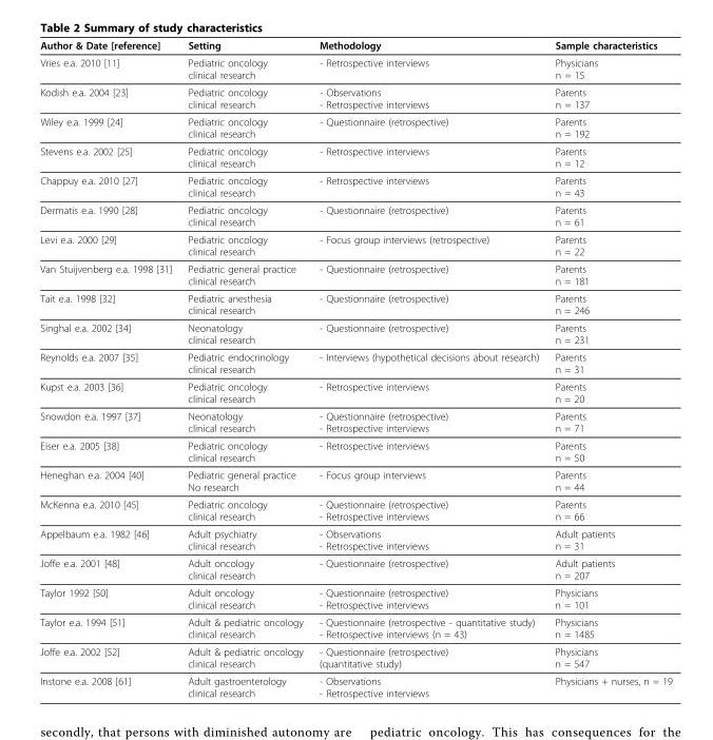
<table><thead><tr><td>Author &amp; Date [reference]</td><td>Setting</td><td>Methodology</td><td>Sample characteristics</td></tr></thead><tbody><tr><td>Vries e.a. 2010 [11]</td><td>Pediatric oncology clinical research</td><td>- Retrospective interviews</td><td>Physicians n = 15</td></tr><tr><td>Kodish e.a. 2004 [23]</td><td>Pediatric oncology clinical research</td><td>- Observations - Retrospective interviews</td><td>Parents n = 137</td></tr><tr><td>Wiley e.a. 1999 [24]</td><td>Pediatric oncology clinical research</td><td>- Questionnaire (retrospective)</td><td>Parents n = 192</td></tr><tr><td>Stevens e.a. 2002 [25]</td><td>Pediatric oncology clinical research</td><td>- Retrospective interviews</td><td>Parents n = 12</td></tr><tr><td>Chappuy e.a. 2010 [27]</td><td>Pediatric oncology clinical research</td><td>- Retrospective interviews</td><td>Parents n = 43</td></tr><tr><td>Dermatis e.a. 1990 [28]</td><td>Pediatric oncology clinical research</td><td>- Questionnaire (retrospective)</td><td>Parents n = 61</td></tr><tr><td>Levi e.a. 2000 [29]</td><td>Pediatric oncology clinical research</td><td>- Focus group interviews (retrospective)</td><td>Parents n = 22</td></tr><tr><td>Van Stuijvenberg e.a. 1998 [31]</td><td>Pediatric general practice clinical research</td><td>- Questionnaire (retrospective)</td><td>Parents n = 181</td></tr><tr><td>Tait e.a. 1998 [32]</td><td>Pediatric anesthesia clinical research</td><td>- Questionnaire (retrospective)</td><td>Parents n = 246</td></tr><tr><td>Singhal e.a. 2002 [34]</td><td>Neonatology clinical research</td><td>- Questionnaire (retrospective)</td><td>Parents n = 231</td></tr><tr><td>Reynolds e.a. 2007 [35]</td><td>Pediatric endocrinology clinical research</td><td>- Interviews (hypothetical decisions about research)</td><td>Parents n = 31</td></tr><tr><td>Kupst e.a. 2003 [36]</td><td>Pediatric oncology clinical research</td><td>- Retrospective interviews</td><td>Parents n = 20</td></tr><tr><td>Snowdon e.a. 1997 [37]</td><td>Neonatology clinical research</td><td>- Questionnaire (retrospective) - Retrospective interviews</td><td>Parents n = 71</td></tr><tr><td>Eiser e.a. 2005 [38]</td><td>Pediatric oncology clinical research</td><td>- Retrospective interviews</td><td>Parents n = 50</td></tr><tr><td>Heneghan e.a. 2004 [40]</td><td>Pediatric general practice No research</td><td>- Focus group interviews</td><td>Parents n = 44</td></tr><tr><td>McKenna e.a. 2010 [45]</td><td>Pediatric oncology clinical research</td><td>- Questionnaire (retrospective) - Retrospective interviews</td><td>Parents n = 66</td></tr><tr><td>Appelbaum e.a. 1982 [46]</td><td>Adult psychiatry clinical research</td><td>- Observations - Retrospective interviews</td><td>Adult patients n = 31</td></tr><tr><td>Joffe e.a. 2001 [48]</td><td>Adult oncology clinical research</td><td>- Questionnaire (retrospective)</td><td>Adult patients n = 207</td></tr><tr><td>Taylor 1992 [50]</td><td>Adult oncology clinical research</td><td>- Questionnaire (retrospective) - Retrospective interviews</td><td>Physicians n = 101</td></tr><tr><td>Taylor e.a. 1994 [51]</td><td>Adult &amp; pediatric oncology clinical research</td><td>- Questionnaire (retrospective - quantitative study) - Retrospective interviews (n = 43)</td><td>Physicians n = 1485</td></tr><tr><td>Joffe e.a. 2002 [52]</td><td>Adult &amp; pediatric oncology clinical research</td><td>- Questionnaire (retrospective) (quantitative study)</td><td>Physicians n = 547</td></tr><tr><td>Instone e.a. 2008 [61]</td><td>Adult gastroenterology clinical research</td><td>- Observations - Retrospective interviews</td><td>Physicians + nurses, n = 19</td></tr></tbody></table>